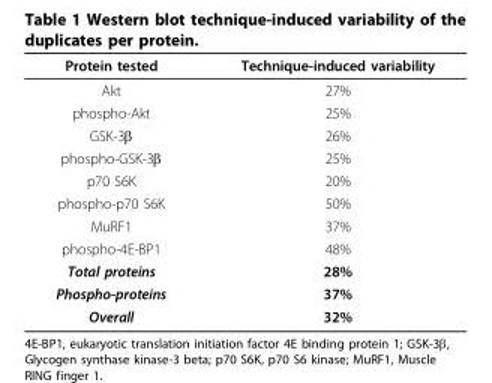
<table><thead><tr><td>Protein tested</td><td>Technique-induced variability</td></tr></thead><tbody><tr><td>Akt</td><td>27%</td></tr><tr><td>phospho-Akt</td><td>25%</td></tr><tr><td>GSK-3β</td><td>26%</td></tr><tr><td>phospho-GSK-3β</td><td>25%</td></tr><tr><td>p70 S6K</td><td>20%</td></tr><tr><td>phospho-p70 S6K</td><td>50%</td></tr><tr><td>MuRF1</td><td>37%</td></tr><tr><td>phospho-4E-BP1</td><td>48%</td></tr><tr><td>Total proteins</td><td>28%</td></tr><tr><td>Phospho-proteins</td><td>37%</td></tr><tr><td>Overall</td><td>32%</td></tr></tbody></table>